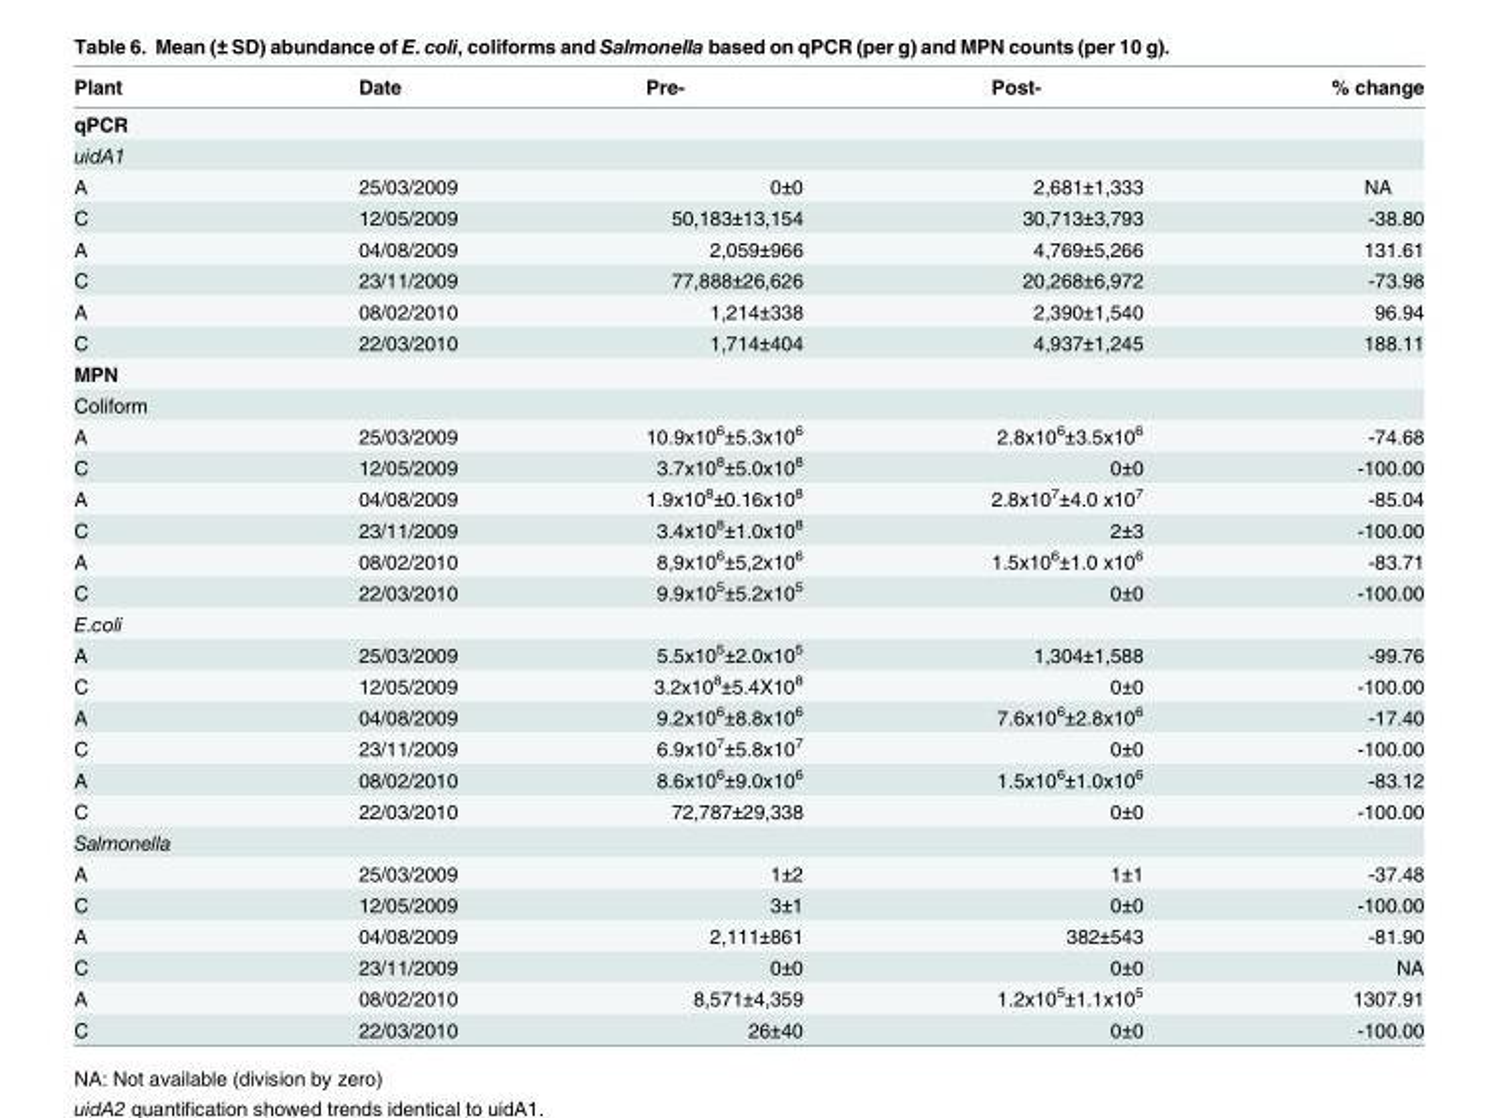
<table><thead><tr><td>Plant</td><td>Date</td><td>Pre-</td><td>Post-</td><td>% change</td></tr></thead><tbody><tr><td colspan="5">qPCR</td></tr><tr><td colspan="5">uidA1</td></tr><tr><td>A</td><td>25/03/2009</td><td>0±0</td><td>2,681±1,333</td><td>NA</td></tr><tr><td>C</td><td>12/05/2009</td><td>50,183±13,154</td><td>30,713±3,793</td><td>-38.80</td></tr><tr><td>A</td><td>04/08/2009</td><td>2,059±966</td><td>4,769±5,266</td><td>131.61</td></tr><tr><td>C</td><td>23/11/2009</td><td>77,888±26,626</td><td>20,268±6,972</td><td>-73.98</td></tr><tr><td>A</td><td>08/02/2010</td><td>1,214±338</td><td>2,390±1,540</td><td>96.94</td></tr><tr><td>C</td><td>22/03/2010</td><td>1,714±404</td><td>4,937±1,245</td><td>188.11</td></tr><tr><td colspan="5">MPN</td></tr><tr><td colspan="5">Coliform</td></tr><tr><td>A</td><td>25/03/2009</td><td>10.9x10<sup>6</sup>±5.3x10<sup>6</sup></td><td>2.8x10<sup>6</sup>±3.5x10<sup>6</sup></td><td>-74.68</td></tr><tr><td>C</td><td>12/05/2009</td><td>3.7x10<sup>8</sup>±5.0x10<sup>8</sup></td><td>0±0</td><td>-100.00</td></tr><tr><td>A</td><td>04/08/2009</td><td>1.9x10<sup>8</sup>±0.16x10<sup>8</sup></td><td>2.8x10<sup>7</sup>±4.0 x10<sup>7</sup></td><td>-85.04</td></tr><tr><td>C</td><td>23/11/2009</td><td>3.4x10<sup>8</sup>±1.0x10<sup>8</sup></td><td>2±3</td><td>-100.00</td></tr><tr><td>A</td><td>08/02/2010</td><td>8,9x10<sup>6</sup>±5,2x10<sup>6</sup></td><td>1.5x10<sup>6</sup>±1.0 x10<sup>6</sup></td><td>-83.71</td></tr><tr><td>C</td><td>22/03/2010</td><td>9.9x10<sup>5</sup>±5.2x10<sup>5</sup></td><td>0±0</td><td>-100.00</td></tr><tr><td colspan="5">E.coli</td></tr><tr><td>A</td><td>25/03/2009</td><td>5.5x10<sup>5</sup>±2.0x10<sup>5</sup></td><td>1,304±1,588</td><td>-99.76</td></tr><tr><td>C</td><td>12/05/2009</td><td>3.2x10<sup>8</sup>±5.4X10<sup>8</sup></td><td>0±0</td><td>-100.00</td></tr><tr><td>A</td><td>04/08/2009</td><td>9.2x10<sup>6</sup>±8.8x10<sup>6</sup></td><td>7.6x10<sup>6</sup>±2.8x10<sup>6</sup></td><td>-17.40</td></tr><tr><td>C</td><td>23/11/2009</td><td>6.9x10<sup>7</sup>±5.8x10<sup>7</sup></td><td>0±0</td><td>-100.00</td></tr><tr><td>A</td><td>08/02/2010</td><td>8.6x10<sup>6</sup>±9.0x10<sup>6</sup></td><td>1.5x10<sup>6</sup>±1.0x10<sup>6</sup></td><td>-83.12</td></tr><tr><td>C</td><td>22/03/2010</td><td>72,787±29,338</td><td>0±0</td><td>-100.00</td></tr><tr><td colspan="5">Salmonella</td></tr><tr><td>A</td><td>25/03/2009</td><td>1±2</td><td>1±1</td><td>-37.48</td></tr><tr><td>C</td><td>12/05/2009</td><td>3±1</td><td>0±0</td><td>-100.00</td></tr><tr><td>A</td><td>04/08/2009</td><td>2,111±861</td><td>382±543</td><td>-81.90</td></tr><tr><td>C</td><td>23/11/2009</td><td>0±0</td><td>0±0</td><td>NA</td></tr><tr><td>A</td><td>08/02/2010</td><td>8,571±4,359</td><td>1.2x10<sup>5</sup>±1.1x10<sup>5</sup></td><td>1307.91</td></tr><tr><td>C</td><td>22/03/2010</td><td>26±40</td><td>0±0</td><td>-100.00</td></tr></tbody></table>